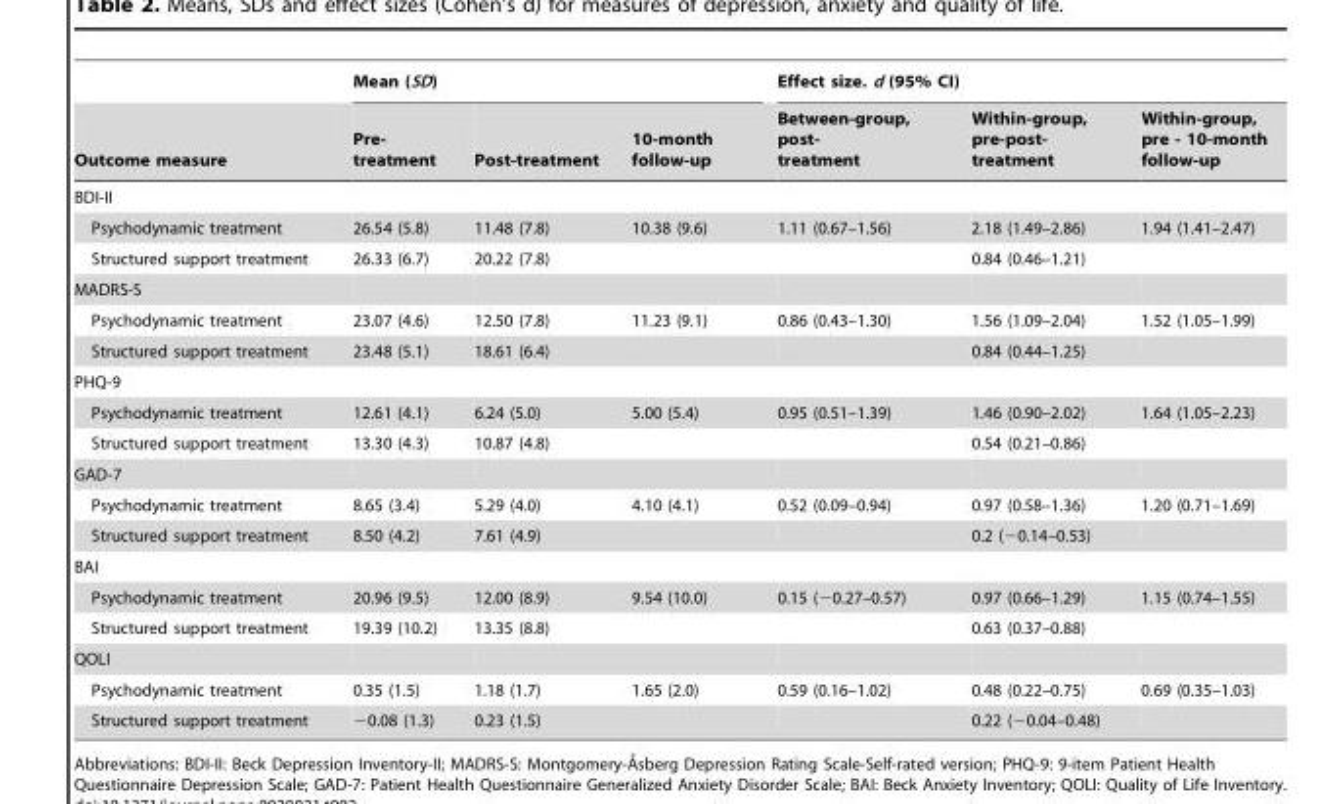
<table><thead><tr><td rowspan="2">Outcome measure</td><td colspan="3">Mean (SD)</td><td colspan="3">Effect size. d (95% CI)</td></tr><tr><td>Pre- treatment</td><td>Post-treatment</td><td>10-month follow-up</td><td>Between-group, post- treatment</td><td>Within-group, pre-post- treatment</td><td>Within-group, pre - 10-month follow-up</td></tr></thead><tbody><tr><td colspan="7">BDI-II</td></tr><tr><td>Psychodynamic treatment</td><td>26.54 (5.8)</td><td>11.48 (7.8)</td><td>10.38 (9.6)</td><td>1.11 (0.67–1.56)</td><td>2.18 (1.49–2.86)</td><td>1.94 (1.41–2.47)</td></tr><tr><td>Structured support treatment</td><td>26.33 (6.7)</td><td>20.22 (7.8)</td><td></td><td></td><td>0.84 (0.46–1.21)</td><td></td></tr><tr><td colspan="7">MADRS-S</td></tr><tr><td>Psychodynamic treatment</td><td>23.07 (4.6)</td><td>12.50 (7.8)</td><td>11.23 (9.1)</td><td>0.86 (0.43–1.30)</td><td>1.56 (1.09–2.04)</td><td>1.52 (1.05–1.99)</td></tr><tr><td>Structured support treatment</td><td>23.48 (5.1)</td><td>18.61 (6.4)</td><td></td><td></td><td>0.84 (0.44–1.25)</td><td></td></tr><tr><td colspan="7">PHQ-9</td></tr><tr><td>Psychodynamic treatment</td><td>12.61 (4.1)</td><td>6.24 (5.0)</td><td>5.00 (5.4)</td><td>0.95 (0.51–1.39)</td><td>1.46 (0.90–2.02)</td><td>1.64 (1.05–2.23)</td></tr><tr><td>Structured support treatment</td><td>13.30 (4.3)</td><td>10.87 (4.8)</td><td></td><td></td><td>0.54 (0.21–0.86)</td><td></td></tr><tr><td colspan="7">GAD-7</td></tr><tr><td>Psychodynamic treatment</td><td>8.65 (3.4)</td><td>5.29 (4.0)</td><td>4.10 (4.1)</td><td>0.52 (0.09–0.94)</td><td>0.97 (0.58–1.36)</td><td>1.20 (0.71–1.69)</td></tr><tr><td>Structured support treatment</td><td>8.50 (4.2)</td><td>7.61 (4.9)</td><td></td><td></td><td>0.2 (−0.14–0.53)</td><td></td></tr><tr><td colspan="7">BAI</td></tr><tr><td>Psychodynamic treatment</td><td>20.96 (9.5)</td><td>12.00 (8.9)</td><td>9.54 (10.0)</td><td>0.15 (−0.27–0.57)</td><td>0.97 (0.66–1.29)</td><td>1.15 (0.74–1.55)</td></tr><tr><td>Structured support treatment</td><td>19.39 (10.2)</td><td>13.35 (8.8)</td><td></td><td></td><td>0.63 (0.37–0.88)</td><td></td></tr><tr><td colspan="7">QOLI</td></tr><tr><td>Psychodynamic treatment</td><td>0.35 (1.5)</td><td>1.18 (1.7)</td><td>1.65 (2.0)</td><td>0.59 (0.16–1.02)</td><td>0.48 (0.22–0.75)</td><td>0.69 (0.35–1.03)</td></tr><tr><td>Structured support treatment</td><td>−0.08 (1.3)</td><td>0.23 (1.5)</td><td></td><td></td><td>0.22 (−0.04–0.48)</td><td></td></tr></tbody></table>